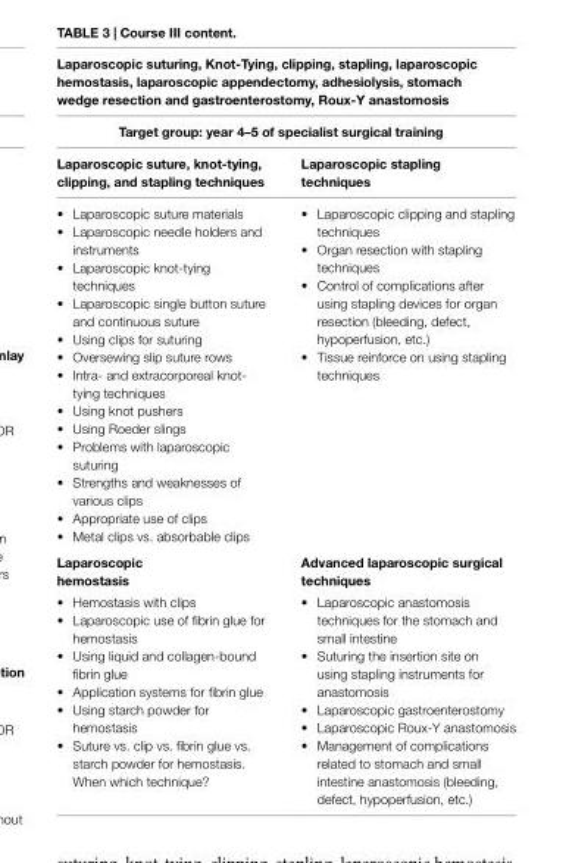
<table><thead><tr><td rowspan="2" colspan="2">laparoscopic suturing, Knot-tying, clipping, stapling, laparoscopic hemostasis, laparoscopic appendectomy, adhesiolysis, stomach wedge resection and gastroenterostomy, roux-y anastomosis target group: year 4–5 of specialist surgical training</td></tr><tr></tr><tr><td>laparoscopic suture, knot-tying, clipping, and stapling techniques</td><td>laparoscopic stapling techniques</td></tr></thead><tbody><tr><td>• Laparoscopic suture materials • Laparoscopic needle holders and instruments • Laparoscopic knot-tying techniques • Laparoscopic single button suture and continuous suture • Using clips for suturing • Oversewing slip suture rows • Intra- and extracorporeal knot- tying techniques • Using knot pushers • Using Roeder slings • Problems with laparoscopic suturing • Strengths and weaknesses of various clips • Appropriate use of clips • Metal clips vs. absorbable clips</td><td>• Laparoscopic clipping and stapling techniques • Organ resection with stapling techniques • Control of complications after using stapling devices for organ resection (bleeding, defect, hypoperfusion, etc.) • Tissue reinforce on using stapling techniques</td></tr><tr><td>laparoscopic hemostasis</td><td>advanced laparoscopic surgical techniques</td></tr><tr><td>• Hemostasis with clips • Laparoscopic use of fibrin glue for hemostasis • Using liquid and collagen-bound fibrin glue • Application systems for fibrin glue • Using starch powder for hemostasis • Suture vs. clip vs. fibrin glue vs. starch powder for hemostasis. When which technique?</td><td>• Laparoscopic anastomosis techniques for the stomach and small intestine • Suturing the insertion site on using stapling instruments for anastomosis • Laparoscopic gastroenterostomy • Laparoscopic Roux-Y anastomosis • Management of complications related to stomach and small intestine anastomosis (bleeding, defect, hypoperfusion, etc.)</td></tr></tbody></table>